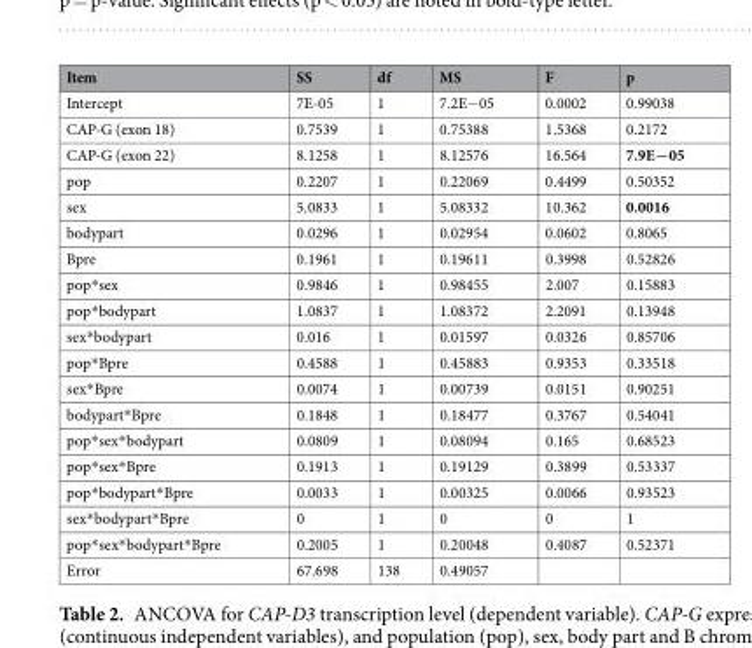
<table><thead><tr><td>Item</td><td>SS</td><td>df</td><td>MS</td><td>F</td><td>p</td></tr></thead><tbody><tr><td>Intercept</td><td>7E-05</td><td>1</td><td>7.2E−05</td><td>0.0002</td><td>0.99038</td></tr><tr><td>CAP-G (exon 18)</td><td>0.7539</td><td>1</td><td>0.75388</td><td>1.5368</td><td>0.2172</td></tr><tr><td>CAP-G (exon 22)</td><td>8.1258</td><td>1</td><td>8.12576</td><td>16.564</td><td>7.9E−05</td></tr><tr><td>pop</td><td>0.2207</td><td>1</td><td>0.22069</td><td>0.4499</td><td>0.50352</td></tr><tr><td>sex</td><td>5.0833</td><td>1</td><td>5.08332</td><td>10.362</td><td>0.0016</td></tr><tr><td>bodypart</td><td>0.0296</td><td>1</td><td>0.02954</td><td>0.0602</td><td>0.8065</td></tr><tr><td>Bpre</td><td>0.1961</td><td>1</td><td>0.19611</td><td>0.3998</td><td>0.52826</td></tr><tr><td>pop*sex</td><td>0.9846</td><td>1</td><td>0.98455</td><td>2.007</td><td>0.15883</td></tr><tr><td>pop*bodypart</td><td>1.0837</td><td>1</td><td>1.08372</td><td>2.2091</td><td>0.13948</td></tr><tr><td>sex*bodypart</td><td>0.016</td><td>1</td><td>0.01597</td><td>0.0326</td><td>0.85706</td></tr><tr><td>pop*Bpre</td><td>0.4588</td><td>1</td><td>0.45883</td><td>0.9353</td><td>0.33518</td></tr><tr><td>sex*Bpre</td><td>0.0074</td><td>1</td><td>0.00739</td><td>0.0151</td><td>0.90251</td></tr><tr><td>bodypart*Bpre</td><td>0.1848</td><td>1</td><td>0.18477</td><td>0.3767</td><td>0.54041</td></tr><tr><td>pop*sex*bodypart</td><td>0.0809</td><td>1</td><td>0.08094</td><td>0.165</td><td>0.68523</td></tr><tr><td>pop*sex*Bpre</td><td>0.1913</td><td>1</td><td>0.19129</td><td>0.3899</td><td>0.53337</td></tr><tr><td>pop*bodypart*Bpre</td><td>0.0033</td><td>1</td><td>0.00325</td><td>0.0066</td><td>0.93523</td></tr><tr><td>sex*bodypart*Bpre</td><td>0</td><td>1</td><td>0</td><td>0</td><td>1</td></tr><tr><td>pop*sex*bodypart*Bpre</td><td>0.2005</td><td>1</td><td>0.20048</td><td>0.4087</td><td>0.52371</td></tr><tr><td>Error</td><td>67.698</td><td>138</td><td>0.49057</td><td></td><td></td></tr></tbody></table>